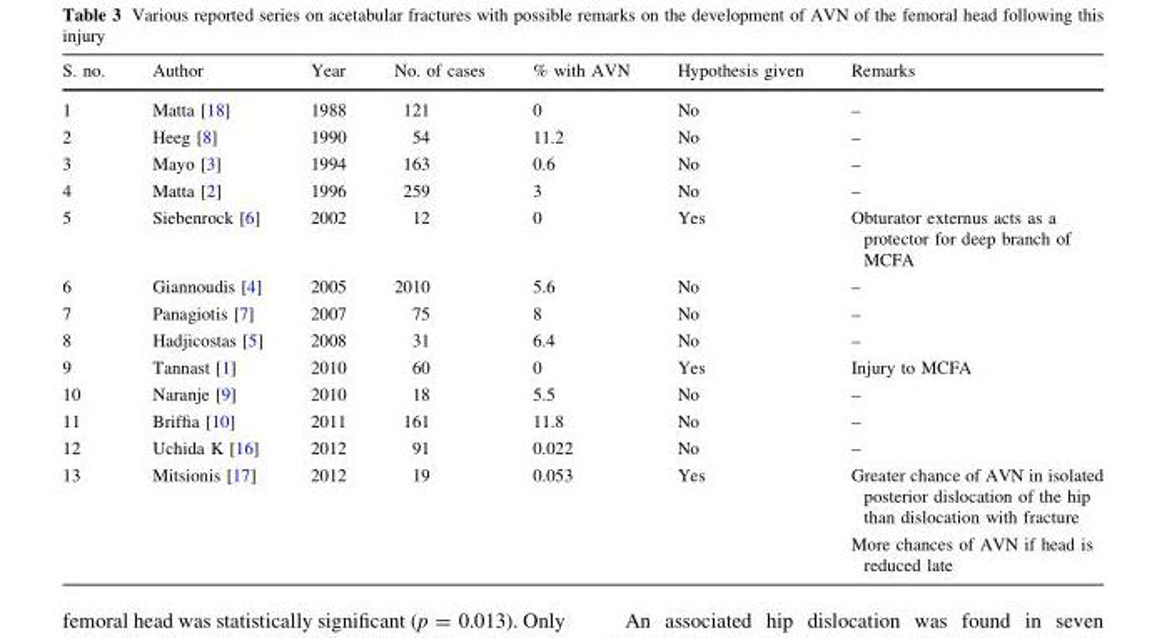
<table><thead><tr><td>S. no.</td><td>Author</td><td>Year</td><td>No. of cases</td><td>% with AVN</td><td>Hypothesis given</td><td>Remarks</td></tr></thead><tbody><tr><td>1</td><td>Matta [18]</td><td>1988</td><td>121</td><td>0</td><td>No</td><td>–</td></tr><tr><td>2</td><td>Heeg [8]</td><td>1990</td><td>54</td><td>11.2</td><td>No</td><td>–</td></tr><tr><td>3</td><td>Mayo [3]</td><td>1994</td><td>163</td><td>0.6</td><td>No</td><td>–</td></tr><tr><td>4</td><td>Matta [2]</td><td>1996</td><td>259</td><td>3</td><td>No</td><td>–</td></tr><tr><td>5</td><td>Siebenrock [6]</td><td>2002</td><td>12</td><td>0</td><td>Yes</td><td>Obturator externus acts as a protector for deep branch of MCFA</td></tr><tr><td>6</td><td>Giannoudis [4]</td><td>2005</td><td>2010</td><td>5.6</td><td>No</td><td>–</td></tr><tr><td>7</td><td>Panagiotis [7]</td><td>2007</td><td>75</td><td>8</td><td>No</td><td>–</td></tr><tr><td>8</td><td>Hadjicostas [5]</td><td>2008</td><td>31</td><td>6.4</td><td>No</td><td>–</td></tr><tr><td>9</td><td>Tannast [1]</td><td>2010</td><td>60</td><td>0</td><td>Yes</td><td>Injury to MCFA</td></tr><tr><td>10</td><td>Naranje [9]</td><td>2010</td><td>18</td><td>5.5</td><td>No</td><td>–</td></tr><tr><td>11</td><td>Briffia [10]</td><td>2011</td><td>161</td><td>11.8</td><td>No</td><td>–</td></tr><tr><td>12</td><td>Uchida K [16]</td><td>2012</td><td>91</td><td>0.022</td><td>No</td><td>–</td></tr><tr><td>13</td><td>Mitsionis [17]</td><td>2012</td><td>19</td><td>0.053</td><td>Yes</td><td>Greater chance of AVN in isolated posterior dislocation of the hip than dislocation with fracture More chances of AVN if head is reduced late</td></tr></tbody></table>